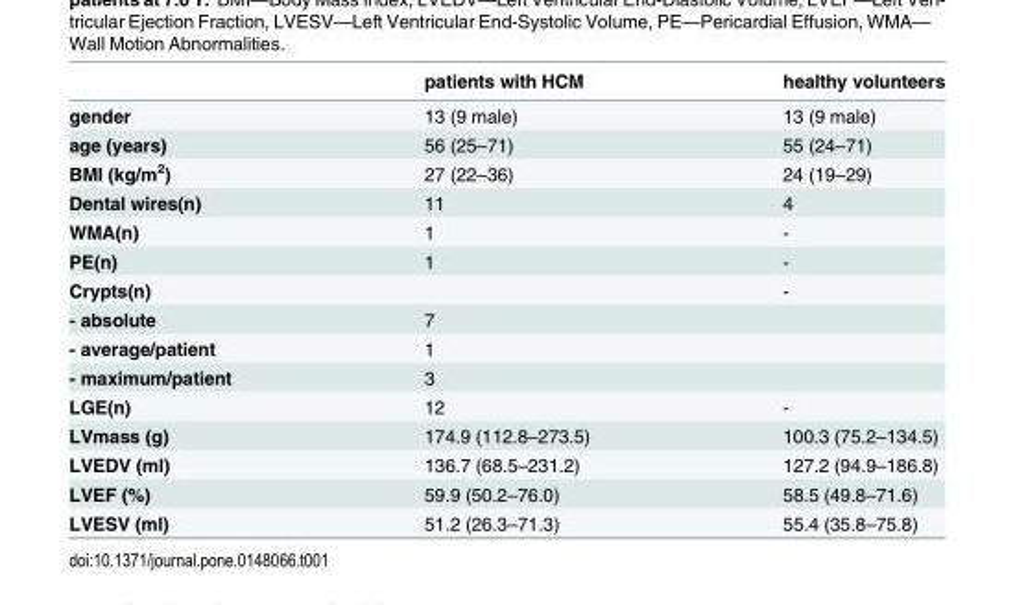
<table><thead><tr><td></td><td>patients with HCM</td><td>healthy volunteers</td></tr></thead><tbody><tr><td>gender</td><td>13 (9 male)</td><td>13 (9 male)</td></tr><tr><td>age (years)</td><td>56 (25–71)</td><td>55 (24–71)</td></tr><tr><td>BMI (kg/m<sup>2</sup>)</td><td>27 (22–36)</td><td>24 (19–29)</td></tr><tr><td>Dental wires(n)</td><td>11</td><td>4</td></tr><tr><td>WMA(n)</td><td>1</td><td>-</td></tr><tr><td>PE(n)</td><td>1</td><td>-</td></tr><tr><td>Crypts(n)</td><td></td><td>-</td></tr><tr><td>- absolute</td><td>7</td><td></td></tr><tr><td>- average/patient</td><td>1</td><td></td></tr><tr><td>- maximum/patient</td><td>3</td><td></td></tr><tr><td>LGE(n)</td><td>12</td><td>-</td></tr><tr><td>LVmass (g)</td><td>174.9 (112.8–273.5)</td><td>100.3 (75.2–134.5)</td></tr><tr><td>LVEDV (ml)</td><td>136.7 (68.5–231.2)</td><td>127.2 (94.9–186.8)</td></tr><tr><td>LVEF (%)</td><td>59.9 (50.2–76.0)</td><td>58.5 (49.8–71.6)</td></tr><tr><td>LVESV (ml)</td><td>51.2 (26.3–71.3)</td><td>55.4 (35.8–75.8)</td></tr></tbody></table>